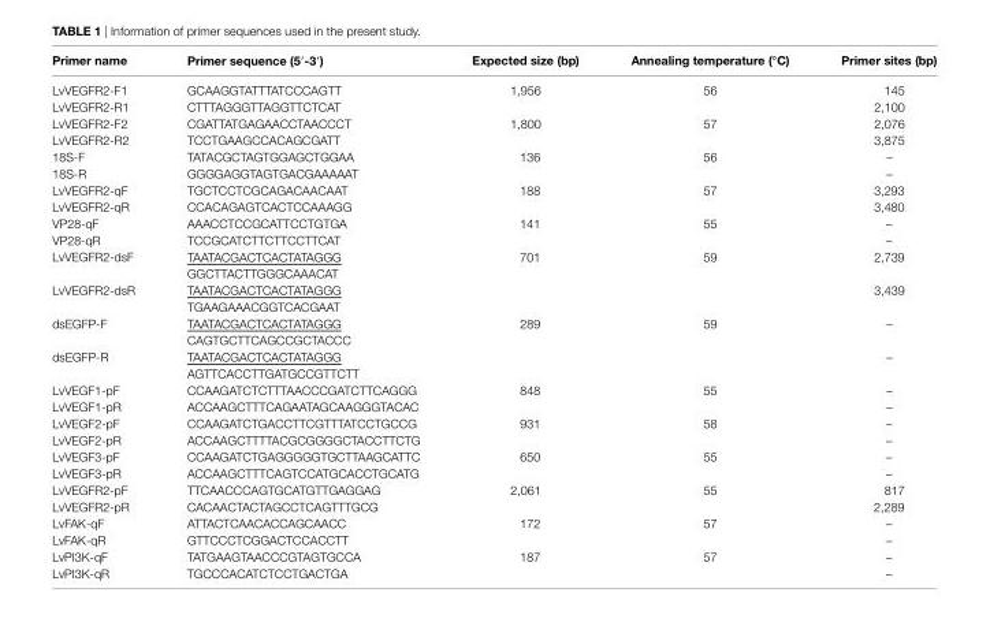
<table><thead><tr><td>Primer name</td><td>Primer sequence (5′-3′)</td><td>expected size (bp)</td><td>annealing temperature (°c)</td><td>Primer sites (bp)</td></tr></thead><tbody><tr><td>LvVEGFR2-F1</td><td>GCAAGGTATTTATCCCAGTT</td><td>1,956</td><td>56</td><td>145</td></tr><tr><td>LvVEGFR2-R1</td><td>CTTTAGGGTTAGGTTCTCAT</td><td></td><td></td><td>2,100</td></tr><tr><td>LvVEGFR2-F2</td><td>CGATTATGAGAACCTAACCCT</td><td>1,800</td><td>57</td><td>2,076</td></tr><tr><td>LvVEGFR2-R2</td><td>TCCTGAAGCCACAGCGATT</td><td></td><td></td><td>3,875</td></tr><tr><td>18S-F</td><td>TATACGCTAGTGGAGCTGGAA</td><td>136</td><td>56</td><td>–</td></tr><tr><td>18S-R</td><td>GGGGAGGTAGTGACGAAAAAT</td><td></td><td></td><td>–</td></tr><tr><td>LvVEGFR2-qF</td><td>TGCTCCTCGCAGACAACAAT</td><td>188</td><td>57</td><td>3,293</td></tr><tr><td>LvVEGFR2-qR</td><td>CCACAGAGTCACTCCAAAGG</td><td></td><td></td><td>3,480</td></tr><tr><td>VP28-qF</td><td>AAACCTCCGCATTCCTGTGA</td><td>141</td><td>55</td><td>–</td></tr><tr><td>VP28-qR</td><td>TCCGCATCTTCTTCCTTCAT</td><td></td><td></td><td>–</td></tr><tr><td rowspan="2">LvVEGFR2-dsF</td><td>TAATACGACTCACTATAGGG</td><td rowspan="2">701</td><td rowspan="2">59</td><td rowspan="2">2,739</td></tr><tr><td>GGCTTACTTGGGCAAACAT</td></tr><tr><td rowspan="2">LvVEGFR2-dsR</td><td>TAATACGACTCACTATAGGG</td><td rowspan="2"></td><td rowspan="2"></td><td rowspan="2">3,439</td></tr><tr><td>TGAAGAAACGGTCACGAAT</td></tr><tr><td rowspan="2">dsEGFP-F</td><td>TAATACGACTCACTATAGGG</td><td rowspan="4">289</td><td rowspan="4">59</td><td rowspan="2">–</td></tr><tr><td>CAGTGCTTCAGCCGCTACCC</td></tr><tr><td rowspan="2">dsEGFP-R</td><td>TAATACGACTCACTATAGGG</td><td rowspan="2">–</td></tr><tr><td>AGTTCACCTTGATGCCGTTCTT</td></tr><tr><td>LvVEGF1-pF</td><td>CCAAGATCTCTTTAACCCGATCTTCAGGG</td><td rowspan="2">848</td><td rowspan="2">55</td><td>–</td></tr><tr><td>LvVEGF1-pR</td><td>ACCAAGCTTTCAGAATAGCAAGGGTACAC</td><td>–</td></tr><tr><td>LvVEGF2-pF</td><td>CCAAGATCTGACCTTCGTTTATCCTGCCG</td><td rowspan="2">931</td><td rowspan="2">58</td><td>–</td></tr><tr><td>LvVEGF2-pR</td><td>ACCAAGCTTTTACGCGGGGCTACCTTCTG</td><td>–</td></tr><tr><td>LvVEGF3-pF</td><td>CCAAGATCTGAGGGGGTGCTTAAGCATTC</td><td rowspan="2">650</td><td rowspan="2">55</td><td>–</td></tr><tr><td>LvVEGF3-pR</td><td>ACCAAGCTTTCAGTCCATGCACCTGCATG</td><td>–</td></tr><tr><td>LvVEGFR2-pF</td><td>TTCAACCCAGTGCATGTTGAGGAG</td><td>2,061</td><td>55</td><td>817</td></tr><tr><td>LvVEGFR2-pR</td><td>CACAACTACTAGCCTCAGTTTGCG</td><td></td><td></td><td>2,289</td></tr><tr><td>LvFAK-qF</td><td>ATTACTCAACACCAGCAACC</td><td rowspan="2">172</td><td rowspan="2">57</td><td>–</td></tr><tr><td>LvFAK-qR</td><td>GTTCCCTCGGACTCCACCTT</td><td>–</td></tr><tr><td>LvPI3K-qF</td><td>TATGAAGTAACCCGTAGTGCCA</td><td rowspan="2">187</td><td rowspan="2">57</td><td>–</td></tr><tr><td>LvPI3K-qR</td><td>TGCCCACATCTCCTGACTGA</td><td>–</td></tr></tbody></table>